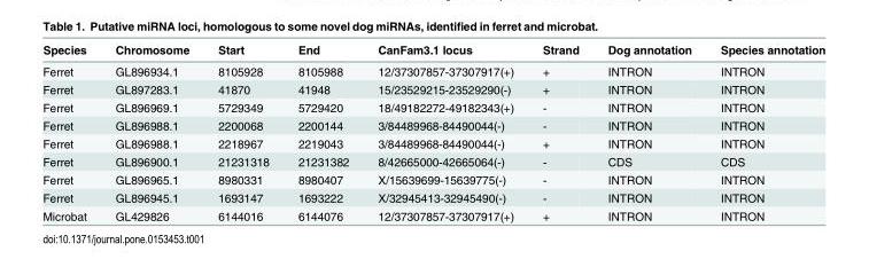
<table><thead><tr><td>Species</td><td>Chromosome</td><td>Start</td><td>End</td><td>CanFam3.1 locus</td><td>Strand</td><td>Dog annotation</td><td>Species annotation</td></tr></thead><tbody><tr><td>Ferret</td><td>GL896934.1</td><td>8105928</td><td>8105988</td><td>12/37307857-37307917(+)</td><td>+</td><td>INTRON</td><td>INTRON</td></tr><tr><td>Ferret</td><td>GL897283.1</td><td>41870</td><td>41948</td><td>15/23529215-23529290(-)</td><td>+</td><td>INTRON</td><td>INTRON</td></tr><tr><td>Ferret</td><td>GL896969.1</td><td>5729349</td><td>5729420</td><td>18/49182272-49182343(+)</td><td>-</td><td>INTRON</td><td>INTRON</td></tr><tr><td>Ferret</td><td>GL896988.1</td><td>2200068</td><td>2200144</td><td>3/84489968-84490044(-)</td><td>-</td><td>INTRON</td><td>INTRON</td></tr><tr><td>Ferret</td><td>GL896988.1</td><td>2218967</td><td>2219043</td><td>3/84489968-84490044(-)</td><td>+</td><td>INTRON</td><td>INTRON</td></tr><tr><td>Ferret</td><td>GL896900.1</td><td>21231318</td><td>21231382</td><td>8/42665000-42665064(-)</td><td>-</td><td>CDS</td><td>CDS</td></tr><tr><td>Ferret</td><td>GL896965.1</td><td>8980331</td><td>8980407</td><td>X/15639699-15639775(-)</td><td>-</td><td>INTRON</td><td>INTRON</td></tr><tr><td>Ferret</td><td>GL896945.1</td><td>1693147</td><td>1693222</td><td>X/32945413-32945490(-)</td><td>-</td><td>INTRON</td><td>INTRON</td></tr><tr><td>Microbat</td><td>GL429826</td><td>6144016</td><td>6144076</td><td>12/37307857-37307917(+)</td><td>+</td><td>INTRON</td><td>INTRON</td></tr></tbody></table>